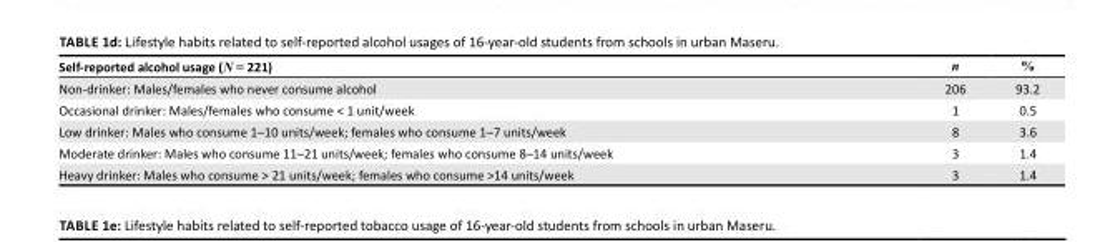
<table><thead><tr><td>Self-reported alcohol usage (N = 221)</td><td>n</td><td>%</td></tr></thead><tbody><tr><td>Non-drinker: Males/females who never consume alcohol</td><td>206</td><td>93.2</td></tr><tr><td>Occasional drinker: Males/females who consume &lt; 1 unit/week</td><td>1</td><td>0.5</td></tr><tr><td>Low drinker: Males who consume 1–10 units/week; females who consume 1–7 units/week</td><td>8</td><td>3.6</td></tr><tr><td>Moderate drinker: Males who consume 11–21 units/week; females who consume 8–14 units/week</td><td>3</td><td>1.4</td></tr><tr><td>Heavy drinker: Males who consume &gt; 21 units/week; females who consume &gt;14 units/week</td><td>3</td><td>1.4</td></tr></tbody></table>